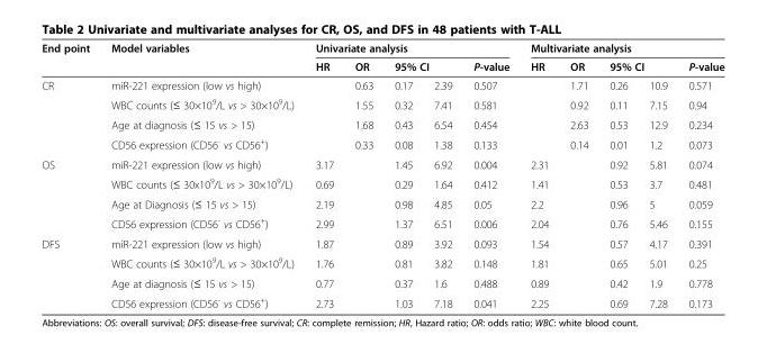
<table><thead><tr><td rowspan="3">End point CR</td><td rowspan="3">Model variables miR-221 expression (low vs high)</td><td colspan="5">Univariate analysis</td><td colspan="5">Multivariate analysis</td></tr><tr><td rowspan="2">HR</td><td rowspan="2">OR 0.63</td><td colspan="2">95% CI</td><td rowspan="2">P-value 0.507</td><td rowspan="2">HR</td><td rowspan="2">OR 1.71</td><td colspan="2">95% CI</td><td rowspan="2">P-value 0.571</td></tr><tr><td>0.17</td><td>2.39</td><td>0.26</td><td>10.9</td></tr></thead><tbody><tr><td></td><td>WBC counts (≤ 30×10<sup>9</sup>/L vs &gt; 30×10<sup>9</sup>/L)</td><td></td><td>1.55</td><td>0.32</td><td>7.41</td><td>0.581</td><td></td><td>0.92</td><td>0.11</td><td>7.15</td><td>0.94</td></tr><tr><td></td><td>Age at diagnosis (≤ 15 vs &gt; 15)</td><td></td><td>1.68</td><td>0.43</td><td>6.54</td><td>0.454</td><td></td><td>2.63</td><td>0.53</td><td>12.9</td><td>0.234</td></tr><tr><td></td><td>CD56 expression (CD56<sup>-</sup> vs CD56<sup>+</sup>)</td><td></td><td>0.33</td><td>0.08</td><td>1.38</td><td>0.133</td><td></td><td>0.14</td><td>0.01</td><td>1.2</td><td>0.073</td></tr><tr><td rowspan="4">OS</td><td>miR-221 expression (low vs high)</td><td>3.17</td><td></td><td>1.45</td><td>6.92</td><td>0.004</td><td>2.31</td><td></td><td>0.92</td><td>5.81</td><td>0.074</td></tr><tr><td>WBC counts (≤ 30x10<sup>9</sup>/L vs &gt; 30×10<sup>9</sup>/L)</td><td>0.69</td><td></td><td>0.29</td><td>1.64</td><td>0.412</td><td>1.41</td><td></td><td>0.53</td><td>3.7</td><td>0.481</td></tr><tr><td>Age at Diagnosis (≤ 15 vs &gt; 15)</td><td>2.19</td><td></td><td>0.98</td><td>4.85</td><td>0.05</td><td>2.2</td><td></td><td>0.96</td><td>5</td><td>0.059</td></tr><tr><td>CD56 expression (CD56<sup>-</sup> vs CD56<sup>+</sup>)</td><td>2.99</td><td></td><td>1.37</td><td>6.51</td><td>0.006</td><td>2.04</td><td></td><td>0.76</td><td>5.46</td><td>0.155</td></tr><tr><td rowspan="4">DFS</td><td>miR-221 expression (low vs high)</td><td>1.87</td><td></td><td>0.89</td><td>3.92</td><td>0.093</td><td>1.54</td><td></td><td>0.57</td><td>4.17</td><td>0.391</td></tr><tr><td>WBC counts (≤ 30×10<sup>9</sup>/L vs &gt; 30×10<sup>9</sup>/L)</td><td>1.76</td><td></td><td>0.81</td><td>3.82</td><td>0.148</td><td>1.81</td><td></td><td>0.65</td><td>5.01</td><td>0.25</td></tr><tr><td>Age at diagnosis (≤ 15 vs &gt; 15)</td><td>0.77</td><td></td><td>0.37</td><td>1.6</td><td>0.488</td><td>0.89</td><td></td><td>0.42</td><td>1.9</td><td>0.778</td></tr><tr><td>CD56 expression (CD56<sup>-</sup> vs CD56<sup>+</sup>)</td><td>2.73</td><td></td><td>1.03</td><td>7.18</td><td>0.041</td><td>2.25</td><td></td><td>0.69</td><td>7.28</td><td>0.173</td></tr></tbody></table>